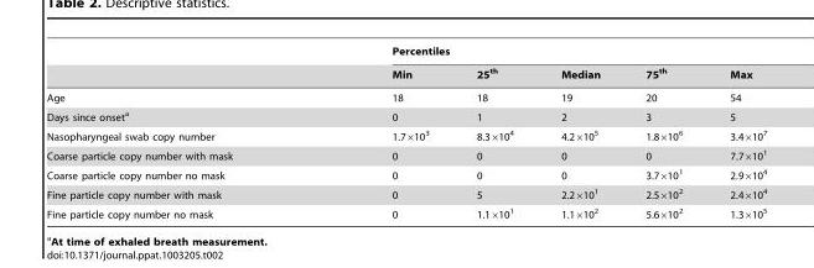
<table><thead><tr><td rowspan="2"></td><td colspan="5">Percentiles</td></tr><tr><td>Min</td><td>25<sup>th</sup></td><td>Median</td><td>75<sup>th</sup></td><td>Max</td></tr></thead><tbody><tr><td>Age</td><td>18</td><td>18</td><td>19</td><td>20</td><td>54</td></tr><tr><td>Days since onset<sup>a</sup></td><td>0</td><td>1</td><td>2</td><td>3</td><td>5</td></tr><tr><td>Nasopharyngeal swab copy number</td><td>1.7×10<sup>3</sup></td><td>8.3×10<sup>4</sup></td><td>4.2×10<sup>5</sup></td><td>1.8×10<sup>6</sup></td><td>3.4×10<sup>7</sup></td></tr><tr><td>Coarse particle copy number with mask</td><td>0</td><td>0</td><td>0</td><td>0</td><td>7.7×10<sup>1</sup></td></tr><tr><td>Coarse particle copy number no mask</td><td>0</td><td>0</td><td>0</td><td>3.7×10<sup>1</sup></td><td>2.9×10<sup>4</sup></td></tr><tr><td>Fine particle copy number with mask</td><td>0</td><td>5</td><td>2.2×10<sup>1</sup></td><td>2.5×10<sup>2</sup></td><td>2.4×10<sup>4</sup></td></tr><tr><td>Fine particle copy number no mask</td><td>0</td><td>1.1×10<sup>1</sup></td><td>1.1×10<sup>2</sup></td><td>5.6×10<sup>2</sup></td><td>1.3×10<sup>5</sup></td></tr></tbody></table>